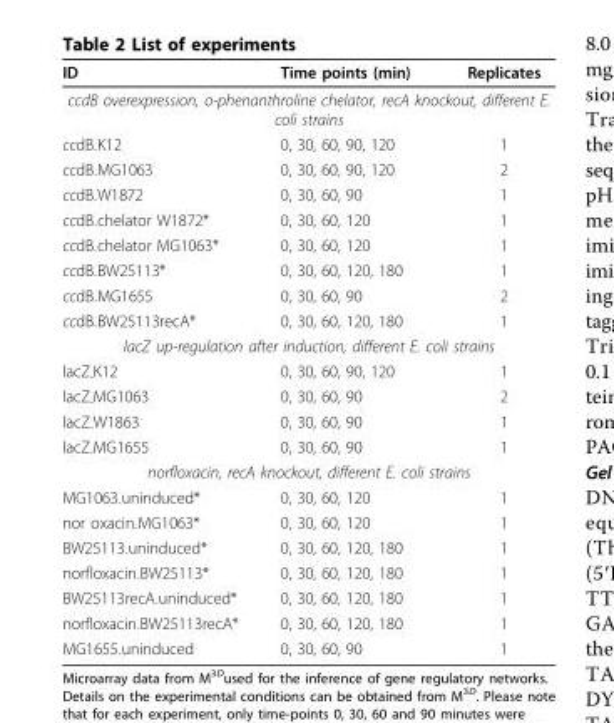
<table><thead><tr><td>ID</td><td>Time points (min)</td><td>Replicates</td></tr></thead><tbody><tr><td colspan="3">ccdB overexpression, o-phenanthroline chelator, recA knockout, different E. coli strains</td></tr><tr><td>ccdB<sub>-</sub>K12</td><td>0, 30, 60, 90, 120</td><td>1</td></tr><tr><td>ccdB<sub>-</sub>MG1063</td><td>0, 30, 60, 90, 120</td><td>2</td></tr><tr><td>ccdB<sub>-</sub>W1872</td><td>0, 30, 60, 90</td><td>1</td></tr><tr><td>ccdB<sub>-</sub>chelator W1872*</td><td>0, 30, 60, 120</td><td>1</td></tr><tr><td>ccdB<sub>-</sub>chelator MG1063*</td><td>0, 30, 60, 120</td><td>1</td></tr><tr><td>ccdB<sub>-</sub>BW25113*</td><td>0, 30, 60, 120, 180</td><td>1</td></tr><tr><td>ccdB<sub>-</sub>MG1655</td><td>0, 30, 60, 90</td><td>2</td></tr><tr><td>ccdB<sub>-</sub>BW25113recA*</td><td>0, 30, 60, 120, 180</td><td>1</td></tr><tr><td colspan="3">lacZ up-regulation after induction, different E. coli strains</td></tr><tr><td>lacZ<sub>-</sub>K12</td><td>0, 30, 60, 90, 120</td><td>1</td></tr><tr><td>lacZ<sub>-</sub>MG1063</td><td>0, 30, 60, 90</td><td>2</td></tr><tr><td>lacZ<sub>-</sub>W1863</td><td>0, 30, 60, 90</td><td>1</td></tr><tr><td>lacZ<sub>-</sub>MG1655</td><td>0, 30, 60, 90</td><td>1</td></tr><tr><td colspan="3">norfloxacin, recA knockout, different E. coli strains</td></tr><tr><td>MG1063<sub>-</sub>uninduced*</td><td>0, 30, 60, 120</td><td>1</td></tr><tr><td>nor oxacin<sub>-</sub>MG1063*</td><td>0, 30, 60, 120</td><td>1</td></tr><tr><td>BW25113<sub>-</sub>uninduced*</td><td>0, 30, 60, 120, 180</td><td>1</td></tr><tr><td>norfloxacin<sub>-</sub>BW25113*</td><td>0, 30, 60, 120, 180</td><td>1</td></tr><tr><td>BW25113recA<sub>-</sub>uninduced*</td><td>0, 30, 60, 120, 180</td><td>1</td></tr><tr><td>norfloxacin<sub>-</sub>BW25113recA*</td><td>0, 30, 60, 120, 180</td><td>1</td></tr><tr><td>MG1655<sub>-</sub>uninduced</td><td>0, 30, 60, 90</td><td>1</td></tr></tbody></table>